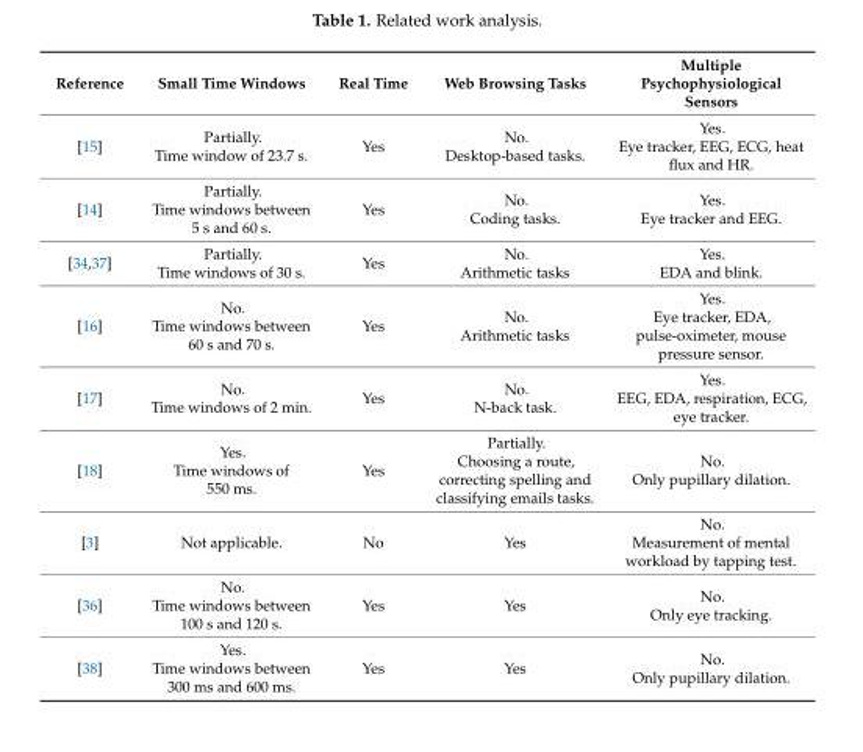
<table><thead><tr><td>Reference</td><td>Small Time Windows</td><td>Real Time</td><td>Web Browsing Tasks</td><td>Multiple Psychophysiological Sensors</td></tr></thead><tbody><tr><td>[15]</td><td>Partially. Time window of 23.7 s.</td><td>Yes</td><td>No. Desktop-based tasks.</td><td>Yes. Eye tracker, EEG, ECG, heat flux and HR.</td></tr><tr><td>[14]</td><td>Partially. Time windows between 5 s and 60 s.</td><td>Yes</td><td>No. Coding tasks.</td><td>Yes. Eye tracker and EEG.</td></tr><tr><td>[34,37]</td><td>Partially. Time windows of 30 s.</td><td>Yes</td><td>No. Arithmetic tasks</td><td>Yes. EDA and blink.</td></tr><tr><td>[16]</td><td>No. Time windows between 60 s and 70 s.</td><td>Yes</td><td>No. Arithmetic tasks</td><td>Yes. Eye tracker, EDA, pulse-oximeter, mouse pressure sensor.</td></tr><tr><td>[17]</td><td>No. Time windows of 2 min.</td><td>Yes</td><td>No. N-back task.</td><td>Yes. EEG, EDA, respiration, ECG, eye tracker.</td></tr><tr><td>[18]</td><td>Yes. Time windows of 550 ms.</td><td>Yes</td><td>Partially. Choosing a route, correcting spelling and classifying emails tasks.</td><td>No. Only pupillary dilation.</td></tr><tr><td>[3]</td><td>Not applicable.</td><td>No</td><td>Yes</td><td>No. Measurement of mental workload by tapping test.</td></tr><tr><td>[36]</td><td>No. Time windows between 100 s and 120 s.</td><td>Yes</td><td>Yes</td><td>No. Only eye tracking.</td></tr><tr><td>[38]</td><td>Yes. Time windows between 300 ms and 600 ms.</td><td>Yes</td><td>Yes</td><td>No. Only pupillary dilation.</td></tr></tbody></table>